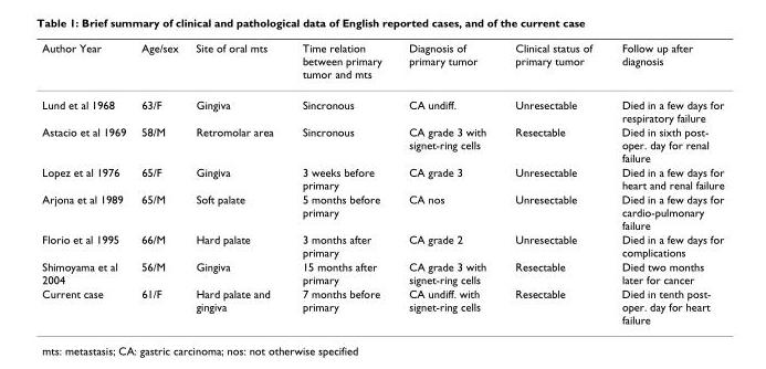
<table><thead><tr><td>Author Year</td><td>Age/sex</td><td>Site of oral mts</td><td>Time relation between primary tumor and mts</td><td>Diagnosis of primary tumor</td><td>Clinical status of primary tumor</td><td>Follow up after diagnosis</td></tr></thead><tbody><tr><td>Lund et al 1968</td><td>63/F</td><td>Gingiva</td><td>Sincronous</td><td>CA undiff.</td><td>Unresectable</td><td>Died in a few days for respiratory failure</td></tr><tr><td>Astacio et al 1969</td><td>58/M</td><td>Retromolar area</td><td>Sincronous</td><td>CA grade 3 with signet-ring cells</td><td>Resectable</td><td>Died in sixth post- oper. day for renal failure</td></tr><tr><td>Lopez et al 1976</td><td>65/F</td><td>Gingiva</td><td>3 weeks before primary</td><td>CA grade 3</td><td>Unresectable</td><td>Died in a few days for heart and renal failure</td></tr><tr><td>Arjona et al 1989</td><td>65/M</td><td>Soft palate</td><td>5 months before primary</td><td>CA nos</td><td>Unresectable</td><td>Died in a few days for cardio-pulmonary failure</td></tr><tr><td>Florio et al 1995</td><td>66/M</td><td>Hard palate</td><td>3 months after primary</td><td>CA grade 2</td><td>Unresectable</td><td>Died in a few days for complications</td></tr><tr><td>Shimoyama et al 2004</td><td>56/M</td><td>Gingiva</td><td>15 months after primary</td><td>CA grade 3 with signet-ring cells</td><td>Resectable</td><td>Died two months later for cancer</td></tr><tr><td>Current case</td><td>61/F</td><td>Hard palate and gingiva</td><td>7 months before primary</td><td>CA undiff. with signet-ring cells</td><td>Resectable</td><td>Died in tenth post- oper. day for heart failure</td></tr></tbody></table>